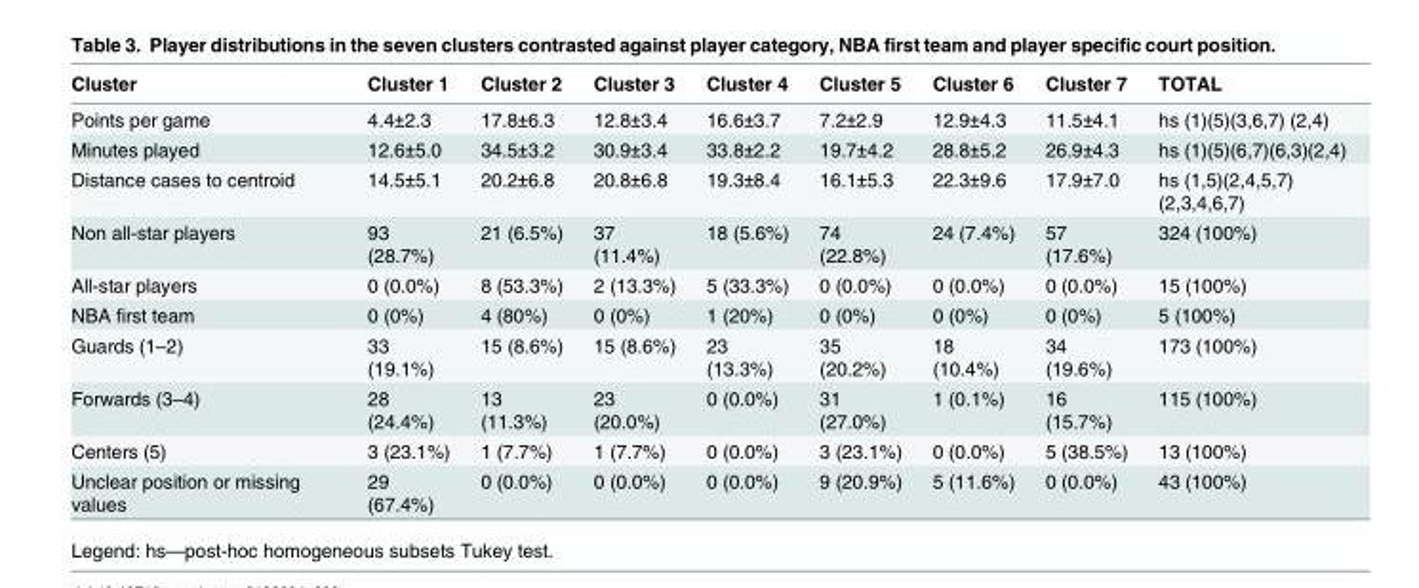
<table><thead><tr><td>Cluster</td><td>Cluster 1</td><td>Cluster 2</td><td>Cluster 3</td><td>Cluster 4</td><td>Cluster 5</td><td>Cluster 6</td><td>Cluster 7</td><td>TOTAL</td></tr></thead><tbody><tr><td>Points per game</td><td>4.4±2.3</td><td>17.8±6.3</td><td>12.8±3.4</td><td>16.6±3.7</td><td>7.2±2.9</td><td>12.9±4.3</td><td>11.5±4.1</td><td>hs (1)(5)(3,6,7) (2,4)</td></tr><tr><td>Minutes played</td><td>12.6±5.0</td><td>34.5±3.2</td><td>30.9±3.4</td><td>33.8±2.2</td><td>19.7±4.2</td><td>28.8±5.2</td><td>26.9±4.3</td><td>hs (1)(5)(6,7)(6,3)(2,4)</td></tr><tr><td>Distance cases to centroid</td><td>14.5±5.1</td><td>20.2±6.8</td><td>20.8±6.8</td><td>19.3±8.4</td><td>16.1±5.3</td><td>22.3±9.6</td><td>17.9±7.0</td><td>hs (1,5)(2,4,5,7) (2,3,4,6,7)</td></tr><tr><td>Non all-star players</td><td>93 (28.7%)</td><td>21 (6.5%)</td><td>37 (11.4%)</td><td>18 (5.6%)</td><td>74 (22.8%)</td><td>24 (7.4%)</td><td>57 (17.6%)</td><td>324 (100%)</td></tr><tr><td>All-star players</td><td>0 (0.0%)</td><td>8 (53.3%)</td><td>2 (13.3%)</td><td>5 (33.3%)</td><td>0 (0.0%)</td><td>0 (0.0%)</td><td>0 (0.0%)</td><td>15 (100%)</td></tr><tr><td>NBA first team</td><td>0 (0%)</td><td>4 (80%)</td><td>0 (0%)</td><td>1 (20%)</td><td>0 (0%)</td><td>0 (0%)</td><td>0 (0%)</td><td>5 (100%)</td></tr><tr><td>Guards (1–2)</td><td>33 (19.1%)</td><td>15 (8.6%)</td><td>15 (8.6%)</td><td>23 (13.3%)</td><td>35 (20.2%)</td><td>18 (10.4%)</td><td>34 (19.6%)</td><td>173 (100%)</td></tr><tr><td>Forwards (3–4)</td><td>28 (24.4%)</td><td>13 (11.3%)</td><td>23 (20.0%)</td><td>0 (0.0%)</td><td>31 (27.0%)</td><td>1 (0.1%)</td><td>16 (15.7%)</td><td>115 (100%)</td></tr><tr><td>Centers (5)</td><td>3 (23.1%)</td><td>1 (7.7%)</td><td>1 (7.7%)</td><td>0 (0.0%)</td><td>3 (23.1%)</td><td>0 (0.0%)</td><td>5 (38.5%)</td><td>13 (100%)</td></tr><tr><td>Unclear position or missing values</td><td>29 (67.4%)</td><td>0 (0.0%)</td><td>0 (0.0%)</td><td>0 (0.0%)</td><td>9 (20.9%)</td><td>5 (11.6%)</td><td>0 (0.0%)</td><td>43 (100%)</td></tr></tbody></table>